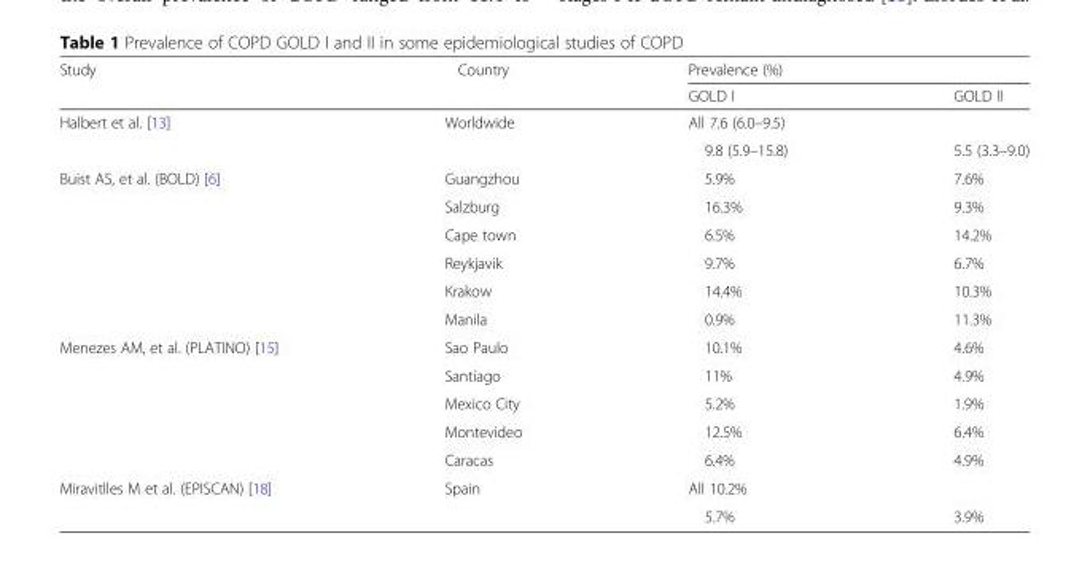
<table><thead><tr><td rowspan="2">Study</td><td rowspan="2">Country</td><td colspan="2">Prevalence (%)</td></tr><tr><td>GOLD I</td><td>GOLD II</td></tr></thead><tbody><tr><td rowspan="2">Halbert et al. [13]</td><td rowspan="2">Worldwide</td><td colspan="2">All 7.6 (6.0–9.5)</td></tr><tr><td>9.8 (5.9–15.8)</td><td>5.5 (3.3–9.0)</td></tr><tr><td rowspan="6">Buist AS, et al. (BOLD) [6]</td><td>Guangzhou</td><td>5.9%</td><td>7.6%</td></tr><tr><td>Salzburg</td><td>16.3%</td><td>9.3%</td></tr><tr><td>Cape town</td><td>6.5%</td><td>14.2%</td></tr><tr><td>Reykjavik</td><td>9.7%</td><td>6.7%</td></tr><tr><td>Krakow</td><td>14.4%</td><td>10.3%</td></tr><tr><td>Manila</td><td>0.9%</td><td>11.3%</td></tr><tr><td rowspan="5">Menezes AM, et al. (PLATINO) [15]</td><td>Sao Paulo</td><td>10.1%</td><td>4.6%</td></tr><tr><td>Santiago</td><td>11%</td><td>4.9%</td></tr><tr><td>Mexico City</td><td>5.2%</td><td>1.9%</td></tr><tr><td>Montevideo</td><td>12.5%</td><td>6.4%</td></tr><tr><td>Caracas</td><td>6.4%</td><td>4.9%</td></tr><tr><td rowspan="2">Miravitlles M et al. (EPISCAN) [18]</td><td rowspan="2">Spain</td><td colspan="2">All 10.2%</td></tr><tr><td>5.7%</td><td>3.9%</td></tr></tbody></table>